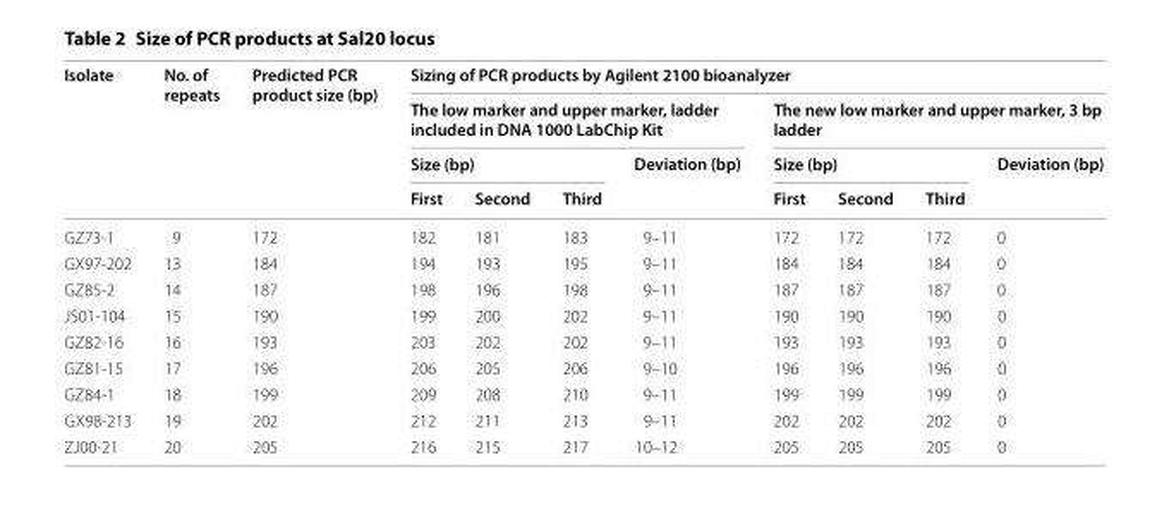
<table><thead><tr><td rowspan="4">Isolate</td><td rowspan="4">No. of repeats</td><td rowspan="4">Predicted PCR product size (bp)</td><td colspan="8">Sizing of PCR products by Agilent 2100 bioanalyzer</td></tr><tr><td colspan="4">The low marker and upper marker, ladder included in DNA 1000 LabChip Kit</td><td colspan="4">The new low marker and upper marker, 3 bp ladder</td></tr><tr><td colspan="3">Size (bp)</td><td rowspan="2">Deviation (bp)</td><td colspan="3">Size (bp)</td><td rowspan="2">Deviation (bp)</td></tr><tr><td>First</td><td>Second</td><td>Third</td><td>First</td><td>Second</td><td>Third</td></tr></thead><tbody><tr><td>GZ73-1</td><td>9</td><td>172</td><td>182</td><td>181</td><td>183</td><td>9–11</td><td>172</td><td>172</td><td>172</td><td>0</td></tr><tr><td>GX97-202</td><td>13</td><td>184</td><td>194</td><td>193</td><td>195</td><td>9–11</td><td>184</td><td>184</td><td>184</td><td>0</td></tr><tr><td>GZ85-2</td><td>14</td><td>187</td><td>198</td><td>196</td><td>198</td><td>9–11</td><td>187</td><td>187</td><td>187</td><td>0</td></tr><tr><td>JS01-104</td><td>15</td><td>190</td><td>199</td><td>200</td><td>202</td><td>9–11</td><td>190</td><td>190</td><td>190</td><td>0</td></tr><tr><td>GZ82-16</td><td>16</td><td>193</td><td>203</td><td>202</td><td>202</td><td>9–11</td><td>193</td><td>193</td><td>193</td><td>0</td></tr><tr><td>GZ81-15</td><td>17</td><td>196</td><td>206</td><td>205</td><td>206</td><td>9–10</td><td>196</td><td>196</td><td>196</td><td>0</td></tr><tr><td>GZ84-1</td><td>18</td><td>199</td><td>209</td><td>208</td><td>210</td><td>9–11</td><td>199</td><td>199</td><td>199</td><td>0</td></tr><tr><td>GX98-213</td><td>19</td><td>202</td><td>212</td><td>211</td><td>213</td><td>9–11</td><td>202</td><td>202</td><td>202</td><td>0</td></tr><tr><td>ZJ00-21</td><td>20</td><td>205</td><td>216</td><td>215</td><td>217</td><td>10–12</td><td>205</td><td>205</td><td>205</td><td>0</td></tr></tbody></table>